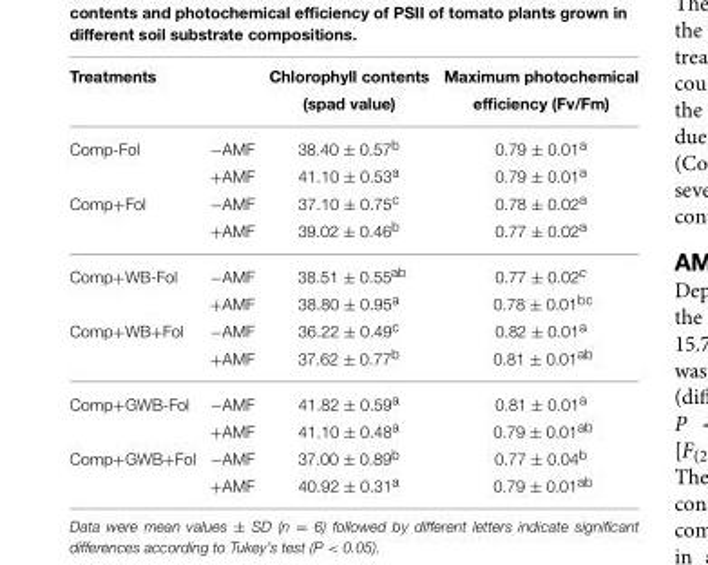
<table><thead><tr><td>Treatments</td><td></td><td>Chlorophyll contents (spad value)</td><td>Maximum photochemical efficiency (Fv/Fm)</td></tr></thead><tbody><tr><td rowspan="2">Comp-Fol</td><td>−AMF</td><td>38.40 ± 0.57<sup>b</sup></td><td>0.79 ± 0.01<sup>a</sup></td></tr><tr><td>+AMF</td><td>41.10 ± 0.53<sup>a</sup></td><td>0.79 ± 0.01<sup>a</sup></td></tr><tr><td rowspan="2">Comp+Fol</td><td>−AMF</td><td>37.10 ± 0.75<sup>c</sup></td><td>0.78 ± 0.02<sup>a</sup></td></tr><tr><td>+AMF</td><td>39.02 ± 0.46<sup>b</sup></td><td>0.77 ± 0.02<sup>a</sup></td></tr><tr><td rowspan="2">Comp+WB-Fol</td><td>−AMF</td><td>38.51 ± 0.55<sup>ab</sup></td><td>0.77 ± 0.02<sup>c</sup></td></tr><tr><td>+AMF</td><td>38.80 ± 0.95<sup>a</sup></td><td>0.78 ± 0.01<sup>bc</sup></td></tr><tr><td rowspan="2">Comp+WB+Fol</td><td>−AMF</td><td>36.22 ± 0.49<sup>c</sup></td><td>0.82 ± 0.01<sup>a</sup></td></tr><tr><td>+AMF</td><td>37.62 ± 0.77<sup>b</sup></td><td>0.81 ± 0.01<sup>ab</sup></td></tr><tr><td rowspan="2">Comp+GWB-Fol</td><td>−AMF</td><td>41.82 ± 0.59<sup>a</sup></td><td>0.81 ± 0.01<sup>a</sup></td></tr><tr><td>+AMF</td><td>41.10 ± 0.48<sup>a</sup></td><td>0.79 ± 0.01<sup>ab</sup></td></tr><tr><td rowspan="2">Comp+GWB+Fol</td><td>−AMF</td><td>37.00 ± 0.89<sup>b</sup></td><td>0.77 ± 0.04<sup>b</sup></td></tr><tr><td>+AMF</td><td>40.92 ± 0.31<sup>a</sup></td><td>0.79 ± 0.01<sup>ab</sup></td></tr></tbody></table>